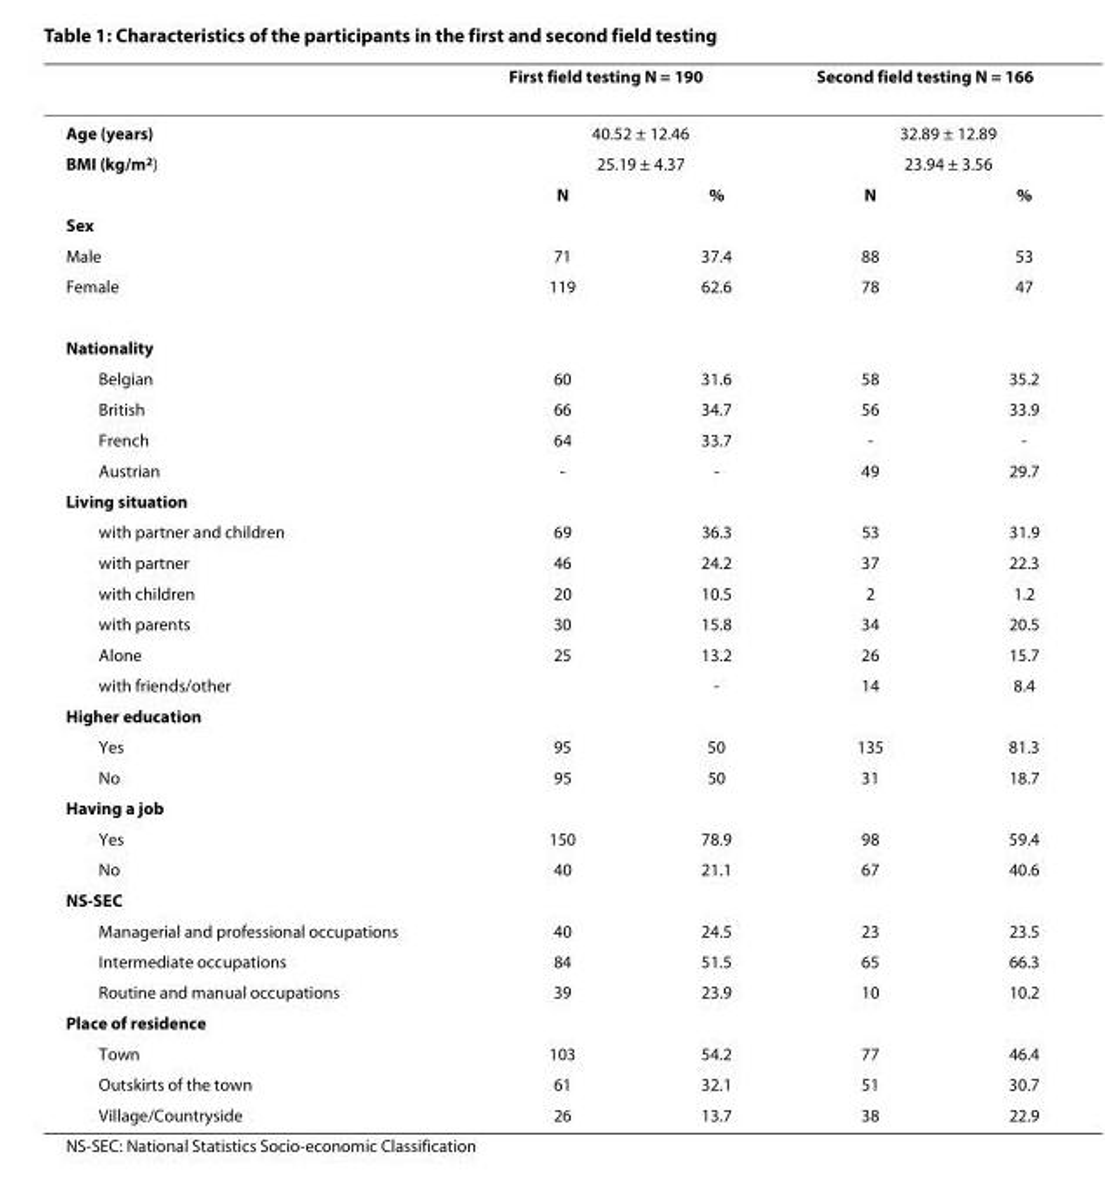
<table><thead><tr><td rowspan="4">Age (years) BMI (kg/m<sup>2</sup>)</td><td rowspan="3" colspan="2">First field testing N = 190 40.52 ± 12.46 25.19 ± 4.37</td><td rowspan="3" colspan="2">Second field testing N = 166 32.89 ± 12.89 23.94 ± 3.56</td></tr><tr></tr><tr></tr><tr><td>N</td><td>%</td><td>N</td><td>%</td></tr></thead><tbody><tr><td colspan="5">Sex</td></tr><tr><td>Male</td><td>71</td><td>37.4</td><td>88</td><td>53</td></tr><tr><td>Female</td><td>119</td><td>62.6</td><td>78</td><td>47</td></tr><tr><td colspan="5">Nationality</td></tr><tr><td>Belgian</td><td>60</td><td>31.6</td><td>58</td><td>35.2</td></tr><tr><td>British</td><td>66</td><td>34.7</td><td>56</td><td>33.9</td></tr><tr><td>French</td><td>64</td><td>33.7</td><td>-</td><td>-</td></tr><tr><td>Austrian</td><td>-</td><td>-</td><td>49</td><td>29.7</td></tr><tr><td colspan="5">Living situation</td></tr><tr><td>with partner and children</td><td>69</td><td>36.3</td><td>53</td><td>31.9</td></tr><tr><td>with partner</td><td>46</td><td>24.2</td><td>37</td><td>22.3</td></tr><tr><td>with children</td><td>20</td><td>10.5</td><td>2</td><td>1.2</td></tr><tr><td>with parents</td><td>30</td><td>15.8</td><td>34</td><td>20.5</td></tr><tr><td>Alone</td><td>25</td><td>13.2</td><td>26</td><td>15.7</td></tr><tr><td>with friends/other</td><td></td><td>-</td><td>14</td><td>8.4</td></tr><tr><td colspan="5">Higher education</td></tr><tr><td>Yes</td><td>95</td><td>50</td><td>135</td><td>81.3</td></tr><tr><td>No</td><td>95</td><td>50</td><td>31</td><td>18.7</td></tr><tr><td colspan="5">Having a job</td></tr><tr><td>Yes</td><td>150</td><td>78.9</td><td>98</td><td>59.4</td></tr><tr><td>No</td><td>40</td><td>21.1</td><td>67</td><td>40.6</td></tr><tr><td colspan="5">NS-SEC</td></tr><tr><td>Managerial and professional occupations</td><td>40</td><td>24.5</td><td>23</td><td>23.5</td></tr><tr><td>Intermediate occupations</td><td>84</td><td>51.5</td><td>65</td><td>66.3</td></tr><tr><td>Routine and manual occupations</td><td>39</td><td>23.9</td><td>10</td><td>10.2</td></tr><tr><td colspan="5">Place of residence</td></tr><tr><td>Town</td><td>103</td><td>54.2</td><td>77</td><td>46.4</td></tr><tr><td>Outskirts of the town</td><td>61</td><td>32.1</td><td>51</td><td>30.7</td></tr><tr><td>Village/Countryside</td><td>26</td><td>13.7</td><td>38</td><td>22.9</td></tr></tbody></table>